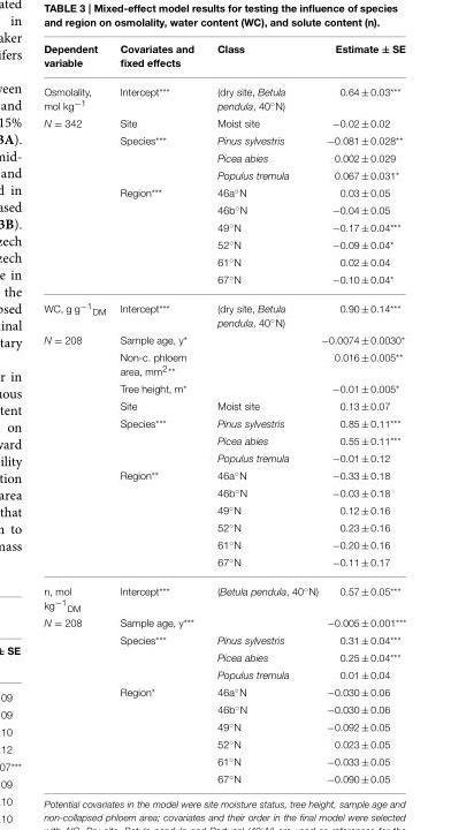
<table><thead><tr><td>Dependent variable</td><td>Covariates and fixed effects</td><td>Class</td><td>Estimate ± SE</td></tr></thead><tbody><tr><td>Osmolality, mol kg<sup>−1</sup></td><td>Intercept***</td><td>(dry site, Betula pendula, 40◦N)</td><td>0.64 ± 0.03***</td></tr><tr><td rowspan="10">N = 342</td><td>Site</td><td>Moist site</td><td>−0.02 ± 0.02</td></tr><tr><td>Species***</td><td>Pinus sylvestris</td><td>−0.081 ± 0.028**</td></tr><tr><td></td><td>Picea abies</td><td>0.002 ± 0.029</td></tr><tr><td></td><td>Populus tremula</td><td>0.067 ± 0.031*</td></tr><tr><td>Region***</td><td>46a◦N</td><td>0.03 ± 0.05</td></tr><tr><td></td><td>46b◦N</td><td>−0.04 ± 0.05</td></tr><tr><td></td><td>49◦N</td><td>−0.17 ± 0.04***</td></tr><tr><td></td><td>52◦N</td><td>−0.09 ± 0.04*</td></tr><tr><td></td><td>61◦N</td><td>0.02 ± 0.04</td></tr><tr><td></td><td>67◦N</td><td>−0.10 ± 0.04*</td></tr><tr><td>WC, g g<sup>−1</sup><sub>DM</sub></td><td>Intercept***</td><td>(dry site, Betula pendula, 40◦N)</td><td>0.90 ± 0.14***</td></tr><tr><td rowspan="13">N = 208</td><td>Sample age, y*</td><td></td><td>−0.0074 ± 0.0030*</td></tr><tr><td>Non-c. phloem area, mm<sup>2**</sup></td><td></td><td>0.016 ± 0.005**</td></tr><tr><td>Tree height, m*</td><td></td><td>−0.01 ± 0.005*</td></tr><tr><td>Site</td><td>Moist site</td><td>0.13 ± 0.07</td></tr><tr><td>Species***</td><td>Pinus sylvestris</td><td>0.85 ± 0.11***</td></tr><tr><td></td><td>Picea abies</td><td>0.55 ± 0.11***</td></tr><tr><td></td><td>Populus tremula</td><td>−0.01 ± 0.12</td></tr><tr><td>Region**</td><td>46a◦N</td><td>−0.33 ± 0.18</td></tr><tr><td></td><td>46b◦N</td><td>−0.03 ± 0.18</td></tr><tr><td></td><td>49◦N</td><td>0.12 ± 0.16</td></tr><tr><td></td><td>52◦N</td><td>0.23 ± 0.16</td></tr><tr><td></td><td>61◦N</td><td>−0.20 ± 0.16</td></tr><tr><td></td><td>67◦N</td><td>−0.11 ± 0.17</td></tr><tr><td>n, mol kg<sup>−1</sup><sub>DM</sub></td><td>Intercept***</td><td>(Betula pendula, 40◦N)</td><td>0.57 ± 0.05***</td></tr><tr><td rowspan="10">N = 208</td><td>Sample age, y***</td><td></td><td>−0.005 ± 0.001***</td></tr><tr><td>Species***</td><td>Pinus sylvestris</td><td>0.31 ± 0.04***</td></tr><tr><td></td><td>Picea abies</td><td>0.25 ± 0.04***</td></tr><tr><td></td><td>Populus tremula</td><td>0.01 ± 0.04</td></tr><tr><td>Region*</td><td>46a◦N</td><td>−0.030 ± 0.06</td></tr><tr><td></td><td>46b◦N</td><td>−0.030 ± 0.06</td></tr><tr><td></td><td>49◦N</td><td>−0.092 ± 0.05</td></tr><tr><td></td><td>52◦N</td><td>0.023 ± 0.05</td></tr><tr><td></td><td>61◦N</td><td>−0.033 ± 0.05</td></tr><tr><td></td><td>67◦N</td><td>−0.090 ± 0.05</td></tr></tbody></table>